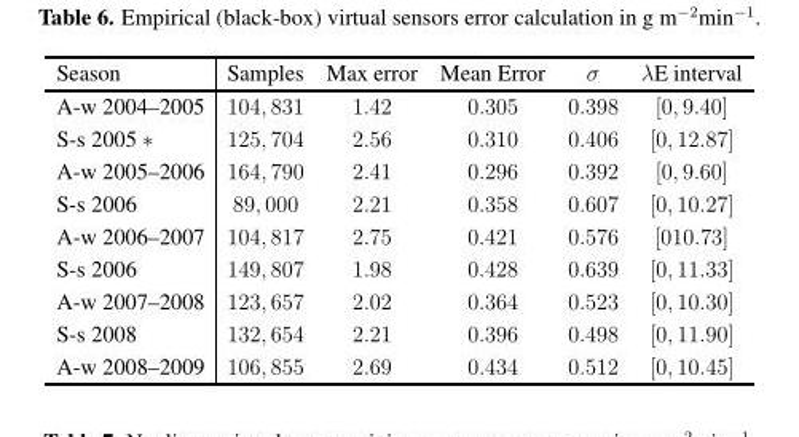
<table><thead><tr><td>Season</td><td>Samples</td><td>Max error</td><td>Mean Error</td><td>σ</td><td>λE interval</td></tr></thead><tbody><tr><td>A-w 2004–2005</td><td>104, 831</td><td>1.42</td><td>0.305</td><td>0.398</td><td>[0, 9.40]</td></tr><tr><td>S-s 2005 ∗</td><td>125, 704</td><td>2.56</td><td>0.310</td><td>0.406</td><td>[0, 12.87]</td></tr><tr><td>A-w 2005–2006</td><td>164, 790</td><td>2.41</td><td>0.296</td><td>0.392</td><td>[0, 9.60]</td></tr><tr><td>S-s 2006</td><td>89, 000</td><td>2.21</td><td>0.358</td><td>0.607</td><td>[0, 10.27]</td></tr><tr><td>A-w 2006–2007</td><td>104, 817</td><td>2.75</td><td>0.421</td><td>0.576</td><td>[010.73]</td></tr><tr><td>S-s 2006</td><td>149, 807</td><td>1.98</td><td>0.428</td><td>0.639</td><td>[0, 11.33]</td></tr><tr><td>A-w 2007–2008</td><td>123, 657</td><td>2.02</td><td>0.364</td><td>0.523</td><td>[0, 10.30]</td></tr><tr><td>S-s 2008</td><td>132, 654</td><td>2.21</td><td>0.396</td><td>0.498</td><td>[0, 11.90]</td></tr><tr><td>A-w 2008–2009</td><td>106, 855</td><td>2.69</td><td>0.434</td><td>0.512</td><td>[0, 10.45]</td></tr></tbody></table>